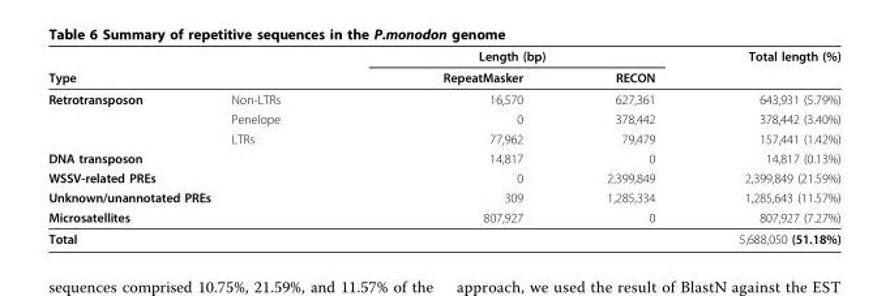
<table><thead><tr><td></td><td></td><td colspan="2">Length (bp)</td><td rowspan="2">Total length (%)</td></tr><tr><td colspan="2">Type</td><td>RepeatMasker</td><td>RECON</td></tr></thead><tbody><tr><td rowspan="3">Retrotransposon</td><td>Non-LTRs</td><td>16,570</td><td>627,361</td><td>643,931 (5.79%)</td></tr><tr><td>Penelope</td><td>0</td><td>378,442</td><td>378,442 (3.40%)</td></tr><tr><td>LTRs</td><td>77,962</td><td>79,479</td><td>157,441 (1.42%)</td></tr><tr><td colspan="2">DNA transposon</td><td>14,817</td><td>0</td><td>14,817 (0.13%)</td></tr><tr><td colspan="2">WSSV-related PREs</td><td>0</td><td>2,399,849</td><td>2,399,849 (21.59%)</td></tr><tr><td colspan="2">Unknown/unannotated PREs</td><td>309</td><td>1,285,334</td><td>1,285,643 (11.57%)</td></tr><tr><td>Microsatellites</td><td></td><td>807,927</td><td>0</td><td>807,927 (7.27%)</td></tr><tr><td>Total</td><td></td><td></td><td></td><td>5,688,050 (51.18%)</td></tr></tbody></table>